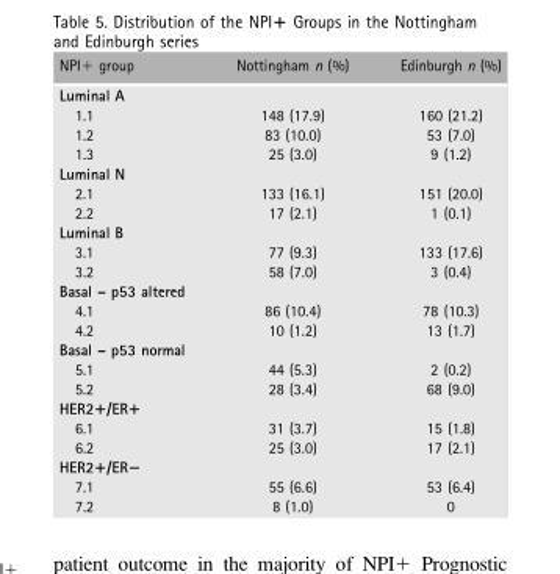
<table><thead><tr><td>NPI+ group</td><td>Nottingham n (%)</td><td>Edinburgh n (%)</td></tr></thead><tbody><tr><td colspan="3">Luminal A</td></tr><tr><td>1.1</td><td>148 (17.9)</td><td>160 (21.2)</td></tr><tr><td>1.2</td><td>83 (10.0)</td><td>53 (7.0)</td></tr><tr><td>1.3</td><td>25 (3.0)</td><td>9 (1.2)</td></tr><tr><td colspan="3">Luminal N</td></tr><tr><td>2.1</td><td>133 (16.1)</td><td>151 (20.0)</td></tr><tr><td>2.2</td><td>17 (2.1)</td><td>1 (0.1)</td></tr><tr><td colspan="3">Luminal B</td></tr><tr><td>3.1</td><td>77 (9.3)</td><td>133 (17.6)</td></tr><tr><td>3.2</td><td>58 (7.0)</td><td>3 (0.4)</td></tr><tr><td colspan="3">Basal – p53 altered</td></tr><tr><td>4.1</td><td>86 (10.4)</td><td>78 (10.3)</td></tr><tr><td>4.2</td><td>10 (1.2)</td><td>13 (1.7)</td></tr><tr><td colspan="3">Basal – p53 normal</td></tr><tr><td>5.1</td><td>44 (5.3)</td><td>2 (0.2)</td></tr><tr><td>5.2</td><td>28 (3.4)</td><td>68 (9.0)</td></tr><tr><td colspan="3">HER2+/ER+</td></tr><tr><td>6.1</td><td>31 (3.7)</td><td>15 (1.8)</td></tr><tr><td>6.2</td><td>25 (3.0)</td><td>17 (2.1)</td></tr><tr><td colspan="3">HER2+/ER−</td></tr><tr><td>7.1</td><td>55 (6.6)</td><td>53 (6.4)</td></tr><tr><td>7.2</td><td>8 (1.0)</td><td>0</td></tr></tbody></table>